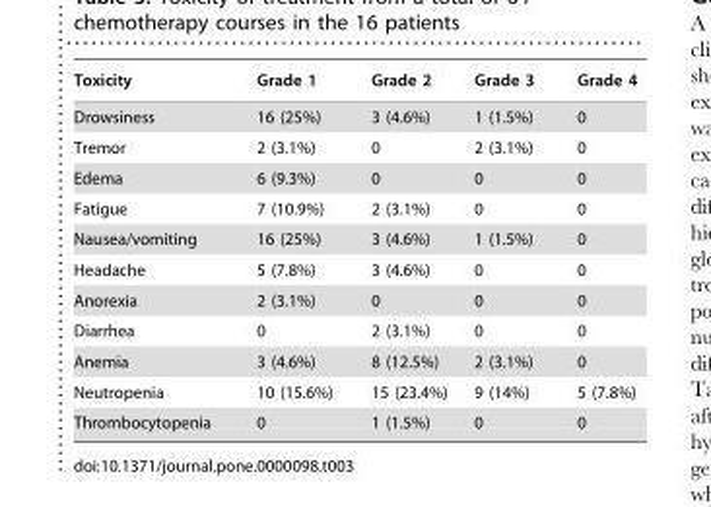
<table><thead><tr><td>Toxicity</td><td>Grade 1</td><td>Grade 2</td><td>Grade 3</td><td>Grade 4</td></tr></thead><tbody><tr><td>Drowsiness</td><td>16 (25%)</td><td>3 (4.6%)</td><td>1 (1.5%)</td><td>0</td></tr><tr><td>Tremor</td><td>2 (3.1%)</td><td>0</td><td>2 (3.1%)</td><td>0</td></tr><tr><td>Edema</td><td>6 (9.3%)</td><td>0</td><td>0</td><td>0</td></tr><tr><td>Fatigue</td><td>7 (10.9%)</td><td>2 (3.1%)</td><td>0</td><td>0</td></tr><tr><td>Nausea/vomiting</td><td>16 (25%)</td><td>3 (4.6%)</td><td>1 (1.5%)</td><td>0</td></tr><tr><td>Headache</td><td>5 (7.8%)</td><td>3 (4.6%)</td><td>0</td><td>0</td></tr><tr><td>Anorexia</td><td>2 (3.1%)</td><td>0</td><td>0</td><td>0</td></tr><tr><td>Diarrhea</td><td>0</td><td>2 (3.1%)</td><td>0</td><td>0</td></tr><tr><td>Anemia</td><td>3 (4.6%)</td><td>8 (12.5%)</td><td>2 (3.1%)</td><td>0</td></tr><tr><td>Neutropenia</td><td>10 (15.6%)</td><td>15 (23.4%)</td><td>9 (14%)</td><td>5 (7.8%)</td></tr><tr><td>Thrombocytopenia</td><td>0</td><td>1 (1.5%)</td><td>0</td><td>0</td></tr></tbody></table>